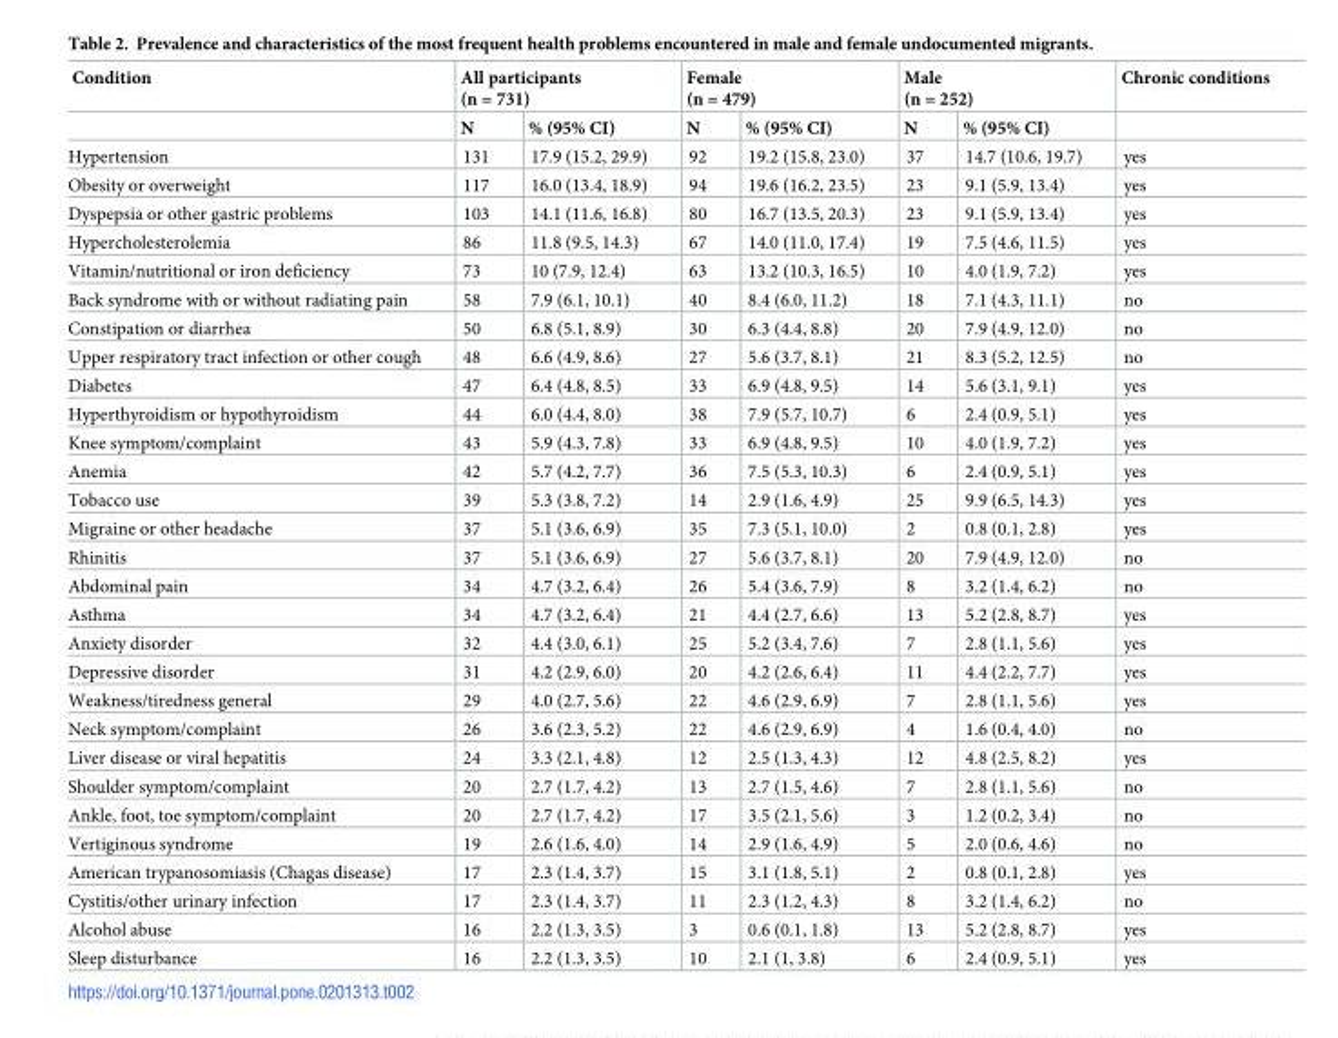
<table><thead><tr><td rowspan="2">Condition</td><td colspan="2">All participants (n = 731)</td><td colspan="2">Female (n = 479)</td><td colspan="2">Male (n = 252)</td><td rowspan="2">Chronic conditions</td></tr><tr><td>N</td><td>% (95% CI)</td><td>N</td><td>% (95% CI)</td><td>N</td><td>% (95% CI)</td></tr></thead><tbody><tr><td>Hypertension</td><td>131</td><td>17.9 (15.2, 29.9)</td><td>92</td><td>19.2 (15.8, 23.0)</td><td>37</td><td>14.7 (10.6, 19.7)</td><td>yes</td></tr><tr><td>Obesity or overweight</td><td>117</td><td>16.0 (13.4, 18.9)</td><td>94</td><td>19.6 (16.2, 23.5)</td><td>23</td><td>9.1 (5.9, 13.4)</td><td>yes</td></tr><tr><td>Dyspepsia or other gastric problems</td><td>103</td><td>14.1 (11.6, 16.8)</td><td>80</td><td>16.7 (13.5, 20.3)</td><td>23</td><td>9.1 (5.9, 13.4)</td><td>yes</td></tr><tr><td>Hypercholesterolemia</td><td>86</td><td>11.8 (9.5, 14.3)</td><td>67</td><td>14.0 (11.0, 17.4)</td><td>19</td><td>7.5 (4.6, 11.5)</td><td>yes</td></tr><tr><td>Vitamin/nutritional or iron deficiency</td><td>73</td><td>10 (7.9, 12.4)</td><td>63</td><td>13.2 (10.3, 16.5)</td><td>10</td><td>4.0 (1.9, 7.2)</td><td>yes</td></tr><tr><td>Back syndrome with or without radiating pain</td><td>58</td><td>7.9 (6.1, 10.1)</td><td>40</td><td>8.4 (6.0, 11.2)</td><td>18</td><td>7.1 (4.3, 11.1)</td><td>no</td></tr><tr><td>Constipation or diarrhea</td><td>50</td><td>6.8 (5.1, 8.9)</td><td>30</td><td>6.3 (4.4, 8.8)</td><td>20</td><td>7.9 (4.9, 12.0)</td><td>no</td></tr><tr><td>Upper respiratory tract infection or other cough</td><td>48</td><td>6.6 (4.9, 8.6)</td><td>27</td><td>5.6 (3.7, 8.1)</td><td>21</td><td>8.3 (5.2, 12.5)</td><td>no</td></tr><tr><td>Diabetes</td><td>47</td><td>6.4 (4.8, 8.5)</td><td>33</td><td>6.9 (4.8, 9.5)</td><td>14</td><td>5.6 (3.1, 9.1)</td><td>yes</td></tr><tr><td>Hyperthyroidism or hypothyroidism</td><td>44</td><td>6.0 (4.4, 8.0)</td><td>38</td><td>7.9 (5.7, 10.7)</td><td>6</td><td>2.4 (0.9, 5.1)</td><td>yes</td></tr><tr><td>Knee symptom/complaint</td><td>43</td><td>5.9 (4.3, 7.8)</td><td>33</td><td>6.9 (4.8, 9.5)</td><td>10</td><td>4.0 (1.9, 7.2)</td><td>yes</td></tr><tr><td>Anemia</td><td>42</td><td>5.7 (4.2, 7.7)</td><td>36</td><td>7.5 (5.3, 10.3)</td><td>6</td><td>2.4 (0.9, 5.1)</td><td>yes</td></tr><tr><td>Tobacco use</td><td>39</td><td>5.3 (3.8, 7.2)</td><td>14</td><td>2.9 (1.6, 4.9)</td><td>25</td><td>9.9 (6.5, 14.3)</td><td>yes</td></tr><tr><td>Migraine or other headache</td><td>37</td><td>5.1 (3.6, 6.9)</td><td>35</td><td>7.3 (5.1, 10.0)</td><td>2</td><td>0.8 (0.1, 2.8)</td><td>yes</td></tr><tr><td>Rhinitis</td><td>37</td><td>5.1 (3.6, 6.9)</td><td>27</td><td>5.6 (3.7, 8.1)</td><td>20</td><td>7.9 (4.9, 12.0)</td><td>no</td></tr><tr><td>Abdominal pain</td><td>34</td><td>4.7 (3.2, 6.4)</td><td>26</td><td>5.4 (3.6, 7.9)</td><td>8</td><td>3.2 (1.4, 6.2)</td><td>no</td></tr><tr><td>Asthma</td><td>34</td><td>4.7 (3.2, 6.4)</td><td>21</td><td>4.4 (2.7, 6.6)</td><td>13</td><td>5.2 (2.8, 8.7)</td><td>yes</td></tr><tr><td>Anxiety disorder</td><td>32</td><td>4.4 (3.0, 6.1)</td><td>25</td><td>5.2 (3.4, 7.6)</td><td>7</td><td>2.8 (1.1, 5.6)</td><td>yes</td></tr><tr><td>Depressive disorder</td><td>31</td><td>4.2 (2.9, 6.0)</td><td>20</td><td>4.2 (2.6, 6.4)</td><td>11</td><td>4.4 (2.2, 7.7)</td><td>yes</td></tr><tr><td>Weakness/tiredness general</td><td>29</td><td>4.0 (2.7, 5.6)</td><td>22</td><td>4.6 (2.9, 6.9)</td><td>7</td><td>2.8 (1.1, 5.6)</td><td>yes</td></tr><tr><td>Neck symptom/complaint</td><td>26</td><td>3.6 (2.3, 5.2)</td><td>22</td><td>4.6 (2.9, 6.9)</td><td>4</td><td>1.6 (0.4, 4.0)</td><td>no</td></tr><tr><td>Liver disease or viral hepatitis</td><td>24</td><td>3.3 (2.1, 4.8)</td><td>12</td><td>2.5 (1.3, 4.3)</td><td>12</td><td>4.8 (2.5, 8.2)</td><td>yes</td></tr><tr><td>Shoulder symptom/complaint</td><td>20</td><td>2.7 (1.7, 4.2)</td><td>13</td><td>2.7 (1.5, 4.6)</td><td>7</td><td>2.8 (1.1, 5.6)</td><td>no</td></tr><tr><td>Ankle, foot, toe symptom/complaint</td><td>20</td><td>2.7 (1.7, 4.2)</td><td>17</td><td>3.5 (2.1, 5.6)</td><td>3</td><td>1.2 (0.2, 3.4)</td><td>no</td></tr><tr><td>Vertiginous syndrome</td><td>19</td><td>2.6 (1.6, 4.0)</td><td>14</td><td>2.9 (1.6, 4.9)</td><td>5</td><td>2.0 (0.6, 4.6)</td><td>no</td></tr><tr><td>American trypanosomiasis (Chagas disease)</td><td>17</td><td>2.3 (1.4, 3.7)</td><td>15</td><td>3.1 (1.8, 5.1)</td><td>2</td><td>0.8 (0.1, 2.8)</td><td>yes</td></tr><tr><td>Cystitis/other urinary infection</td><td>17</td><td>2.3 (1.4, 3.7)</td><td>11</td><td>2.3 (1.2, 4.3)</td><td>8</td><td>3.2 (1.4, 6.2)</td><td>no</td></tr><tr><td>Alcohol abuse</td><td>16</td><td>2.2 (1.3, 3.5)</td><td>3</td><td>0.6 (0.1, 1.8)</td><td>13</td><td>5.2 (2.8, 8.7)</td><td>yes</td></tr><tr><td>Sleep disturbance</td><td>16</td><td>2.2 (1.3, 3.5)</td><td>10</td><td>2.1 (1, 3.8)</td><td>6</td><td>2.4 (0.9, 5.1)</td><td>yes</td></tr></tbody></table>